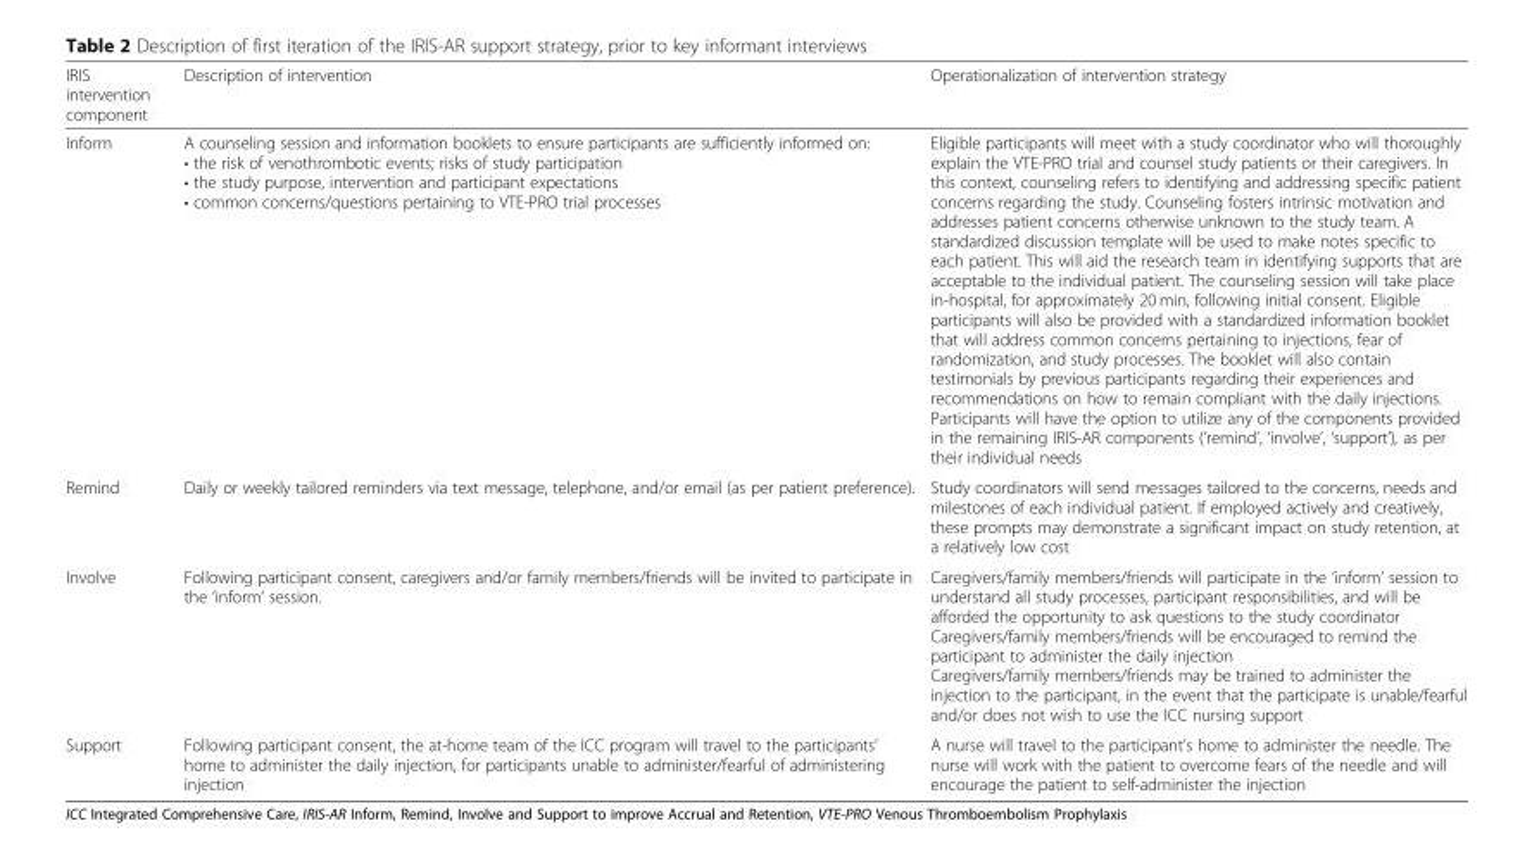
<table><thead><tr><td>IRIS intervention component</td><td>Description of intervention</td><td>Operationalization of intervention strategy</td></tr></thead><tbody><tr><td>Inform</td><td>A counseling session and information booklets to ensure participants are sufficiently informed on: • the risk of venothrombotic events; risks of study participation • the study purpose, intervention and participant expectations • common concerns/questions pertaining to VTE-PRO trial processes</td><td>Eligible participants will meet with a study coordinator who will thoroughly explain the VTE-PRO trial and counsel study patients or their caregivers. In this context, counseling refers to identifying and addressing specific patient concerns regarding the study. Counseling fosters intrinsic motivation and addresses patient concerns otherwise unknown to the study team. A standardized discussion template will be used to make notes specific to each patient. This will aid the research team in identifying supports that are acceptable to the individual patient. The counseling session will take place in-hospital, for approximately 20 min, following initial consent. Eligible participants will also be provided with a standardized information booklet that will address common concerns pertaining to injections, fear of randomization, and study processes. The booklet will also contain testimonials by previous participants regarding their experiences and recommendations on how to remain compliant with the daily injections. Participants will have the option to utilize any of the components provided in the remaining IRIS-AR components (‘remind’, ‘involve’, ‘support’), as per their individual needs</td></tr><tr><td>Remind</td><td>Daily or weekly tailored reminders via text message, telephone, and/or email (as per patient preference).</td><td>Study coordinators will send messages tailored to the concerns, needs and milestones of each individual patient. If employed actively and creatively, these prompts may demonstrate a significant impact on study retention, at a relatively low cost</td></tr><tr><td>Involve</td><td>Following participant consent, caregivers and/or family members/friends will be invited to participate in the ‘inform’ session.</td><td>Caregivers/family members/friends will participate in the ‘inform’ session to understand all study processes, participant responsibilities, and will be afforded the opportunity to ask questions to the study coordinator Caregivers/family members/friends will be encouraged to remind the participant to administer the daily injection Caregivers/family members/friends may be trained to administer the injection to the participant, in the event that the participate is unable/fearful and/or does not wish to use the ICC nursing support</td></tr><tr><td>Support</td><td>Following participant consent, the at-home team of the ICC program will travel to the participants’ home to administer the daily injection, for participants unable to administer/fearful of administering injection</td><td>A nurse will travel to the participant’s home to administer the needle. The nurse will work with the patient to overcome fears of the needle and will encourage the patient to self-administer the injection</td></tr></tbody></table>